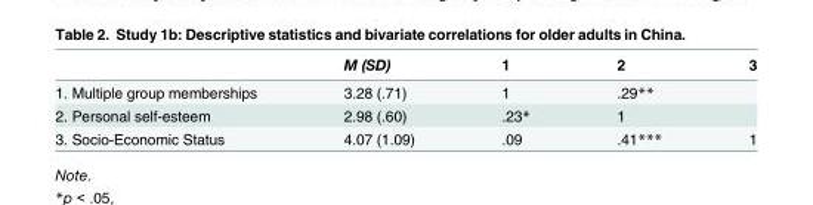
<table><thead><tr><td></td><td>M (SD)</td><td>1</td><td>2</td><td>3</td></tr></thead><tbody><tr><td>1. Multiple group memberships</td><td>3.28 (.71)</td><td>1</td><td>.29**</td><td></td></tr><tr><td>2. Personal self-esteem</td><td>2.98 (.60)</td><td>.23*</td><td>1</td><td></td></tr><tr><td>3. Socio-Economic Status</td><td>4.07 (1.09)</td><td>.09</td><td>.41***</td><td>1</td></tr></tbody></table>